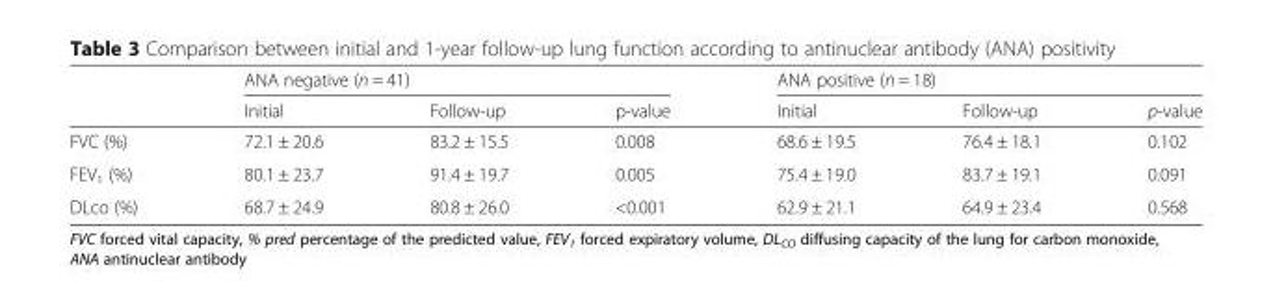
<table><thead><tr><td rowspan="2"></td><td colspan="3">ANA negative (n = 41)</td><td colspan="3">ANA positive (n = 18)</td></tr><tr><td>Initial</td><td>Follow-up</td><td>p-value</td><td>Initial</td><td>Follow-up</td><td>p-value</td></tr></thead><tbody><tr><td>FVC (%)</td><td>72.1 ± 20.6</td><td>83.2 ± 15.5</td><td>0.008</td><td>68.6 ± 19.5</td><td>76.4 ± 18.1</td><td>0.102</td></tr><tr><td>FEV<sub>1</sub> (%)</td><td>80.1 ± 23.7</td><td>91.4 ± 19.7</td><td>0.005</td><td>75.4 ± 19.0</td><td>83.7 ± 19.1</td><td>0.091</td></tr><tr><td>DLco (%)</td><td>68.7 ± 24.9</td><td>80.8 ± 26.0</td><td>&lt;0.001</td><td>62.9 ± 21.1</td><td>64.9 ± 23.4</td><td>0.568</td></tr></tbody></table>